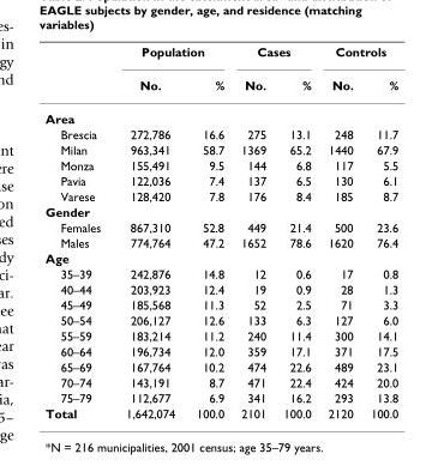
<table><thead><tr><td rowspan="2"></td><td colspan="2">Population</td><td colspan="2">Cases</td><td colspan="2">Controls</td></tr><tr><td>No.</td><td>%</td><td>No.</td><td>%</td><td>No.</td><td>%</td></tr></thead><tbody><tr><td colspan="7">Area</td></tr><tr><td>Brescia</td><td>272,786</td><td>16.6</td><td>275</td><td>13.1</td><td>248</td><td>11.7</td></tr><tr><td>Milan</td><td>963,341</td><td>58.7</td><td>1369</td><td>65.2</td><td>1440</td><td>67.9</td></tr><tr><td>Monza</td><td>155,491</td><td>9.5</td><td>144</td><td>6.8</td><td>117</td><td>5.5</td></tr><tr><td>Pavia</td><td>122,036</td><td>7.4</td><td>137</td><td>6.5</td><td>130</td><td>6.1</td></tr><tr><td>Varese</td><td>128,420</td><td>7.8</td><td>176</td><td>8.4</td><td>185</td><td>8.7</td></tr><tr><td colspan="7">Gender</td></tr><tr><td>Females</td><td>867,310</td><td>52.8</td><td>449</td><td>21.4</td><td>500</td><td>23.6</td></tr><tr><td>Males</td><td>774,764</td><td>47.2</td><td>1652</td><td>78.6</td><td>1620</td><td>76.4</td></tr><tr><td colspan="7">Age</td></tr><tr><td>35–39</td><td>242,876</td><td>14.8</td><td>12</td><td>0.6</td><td>17</td><td>0.8</td></tr><tr><td>40–44</td><td>203,923</td><td>12.4</td><td>19</td><td>0.9</td><td>28</td><td>1.3</td></tr><tr><td>45–49</td><td>185,568</td><td>11.3</td><td>52</td><td>2.5</td><td>71</td><td>3.3</td></tr><tr><td>50–54</td><td>206,127</td><td>12.6</td><td>133</td><td>6.3</td><td>127</td><td>6.0</td></tr><tr><td>55–59</td><td>183,214</td><td>11.2</td><td>240</td><td>11.4</td><td>300</td><td>14.1</td></tr><tr><td>60–64</td><td>196,734</td><td>12.0</td><td>359</td><td>17.1</td><td>371</td><td>17.5</td></tr><tr><td>65–69</td><td>167,764</td><td>10.2</td><td>474</td><td>22.6</td><td>489</td><td>23.1</td></tr><tr><td>70–74</td><td>143,191</td><td>8.7</td><td>471</td><td>22.4</td><td>424</td><td>20.0</td></tr><tr><td>75–79</td><td>112,677</td><td>6.9</td><td>341</td><td>16.2</td><td>293</td><td>13.8</td></tr><tr><td>Total</td><td>1,642,074</td><td>100.0</td><td>2101</td><td>100.0</td><td>2120</td><td>100.0</td></tr></tbody></table>